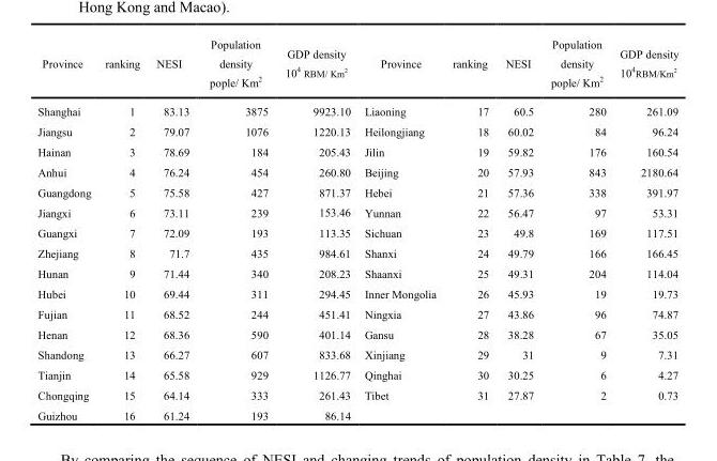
<table><thead><tr><td>Province</td><td>ranking</td><td>NESI</td><td>Population density pople/ Km<sup>2</sup></td><td>GDP density 10<sup>4</sup> RBM/ Km<sup>2</sup></td><td>Province</td><td>ranking</td><td>NESI</td><td>Population density pople/ Km<sup>2</sup></td><td>GDP density 10<sup>4</sup>RBM/Km<sup>2</sup></td></tr></thead><tbody><tr><td>Shanghai</td><td>1</td><td>83.13</td><td>3875</td><td>9923.10</td><td>Liaoning</td><td>17</td><td>60.5</td><td>280</td><td>261.09</td></tr><tr><td>Jiangsu</td><td>2</td><td>79.07</td><td>1076</td><td>1220.13</td><td>Heilongjiang</td><td>18</td><td>60.02</td><td>84</td><td>96.24</td></tr><tr><td>Hainan</td><td>3</td><td>78.69</td><td>184</td><td>205.43</td><td>Jilin</td><td>19</td><td>59.82</td><td>176</td><td>160.54</td></tr><tr><td>Anhui</td><td>4</td><td>76.24</td><td>454</td><td>260.80</td><td>Beijing</td><td>20</td><td>57.93</td><td>843</td><td>2180.64</td></tr><tr><td>Guangdong</td><td>5</td><td>75.58</td><td>427</td><td>871.37</td><td>Hebei</td><td>21</td><td>57.36</td><td>338</td><td>391.97</td></tr><tr><td>Jiangxi</td><td>6</td><td>73.11</td><td>239</td><td>153.46</td><td>Yunnan</td><td>22</td><td>56.47</td><td>97</td><td>53.31</td></tr><tr><td>Guangxi</td><td>7</td><td>72.09</td><td>193</td><td>113.35</td><td>Sichuan</td><td>23</td><td>49.8</td><td>169</td><td>117.51</td></tr><tr><td>Zhejiang</td><td>8</td><td>71.7</td><td>435</td><td>984.61</td><td>Shanxi</td><td>24</td><td>49.79</td><td>166</td><td>166.45</td></tr><tr><td>Hunan</td><td>9</td><td>71.44</td><td>340</td><td>208.23</td><td>Shaanxi</td><td>25</td><td>49.31</td><td>204</td><td>114.04</td></tr><tr><td>Hubei</td><td>10</td><td>69.44</td><td>311</td><td>294.45</td><td>Inner Mongolia</td><td>26</td><td>45.93</td><td>19</td><td>19.73</td></tr><tr><td>Fujian</td><td>11</td><td>68.52</td><td>244</td><td>451.41</td><td>Ningxia</td><td>27</td><td>43.86</td><td>96</td><td>74.87</td></tr><tr><td>Henan</td><td>12</td><td>68.36</td><td>590</td><td>401.14</td><td>Gansu</td><td>28</td><td>38.28</td><td>67</td><td>35.05</td></tr><tr><td>Shandong</td><td>13</td><td>66.27</td><td>607</td><td>833.68</td><td>Xinjiang</td><td>29</td><td>31</td><td>9</td><td>7.31</td></tr><tr><td>Tianjin</td><td>14</td><td>65.58</td><td>929</td><td>1126.77</td><td>Qinghai</td><td>30</td><td>30.25</td><td>6</td><td>4.27</td></tr><tr><td>Chongqing</td><td>15</td><td>64.14</td><td>333</td><td>261.43</td><td>Tibet</td><td>31</td><td>27.87</td><td>2</td><td>0.73</td></tr><tr><td>Guizhou</td><td>16</td><td>61.24</td><td>193</td><td>86.14</td><td></td><td></td><td></td><td></td><td></td></tr></tbody></table>